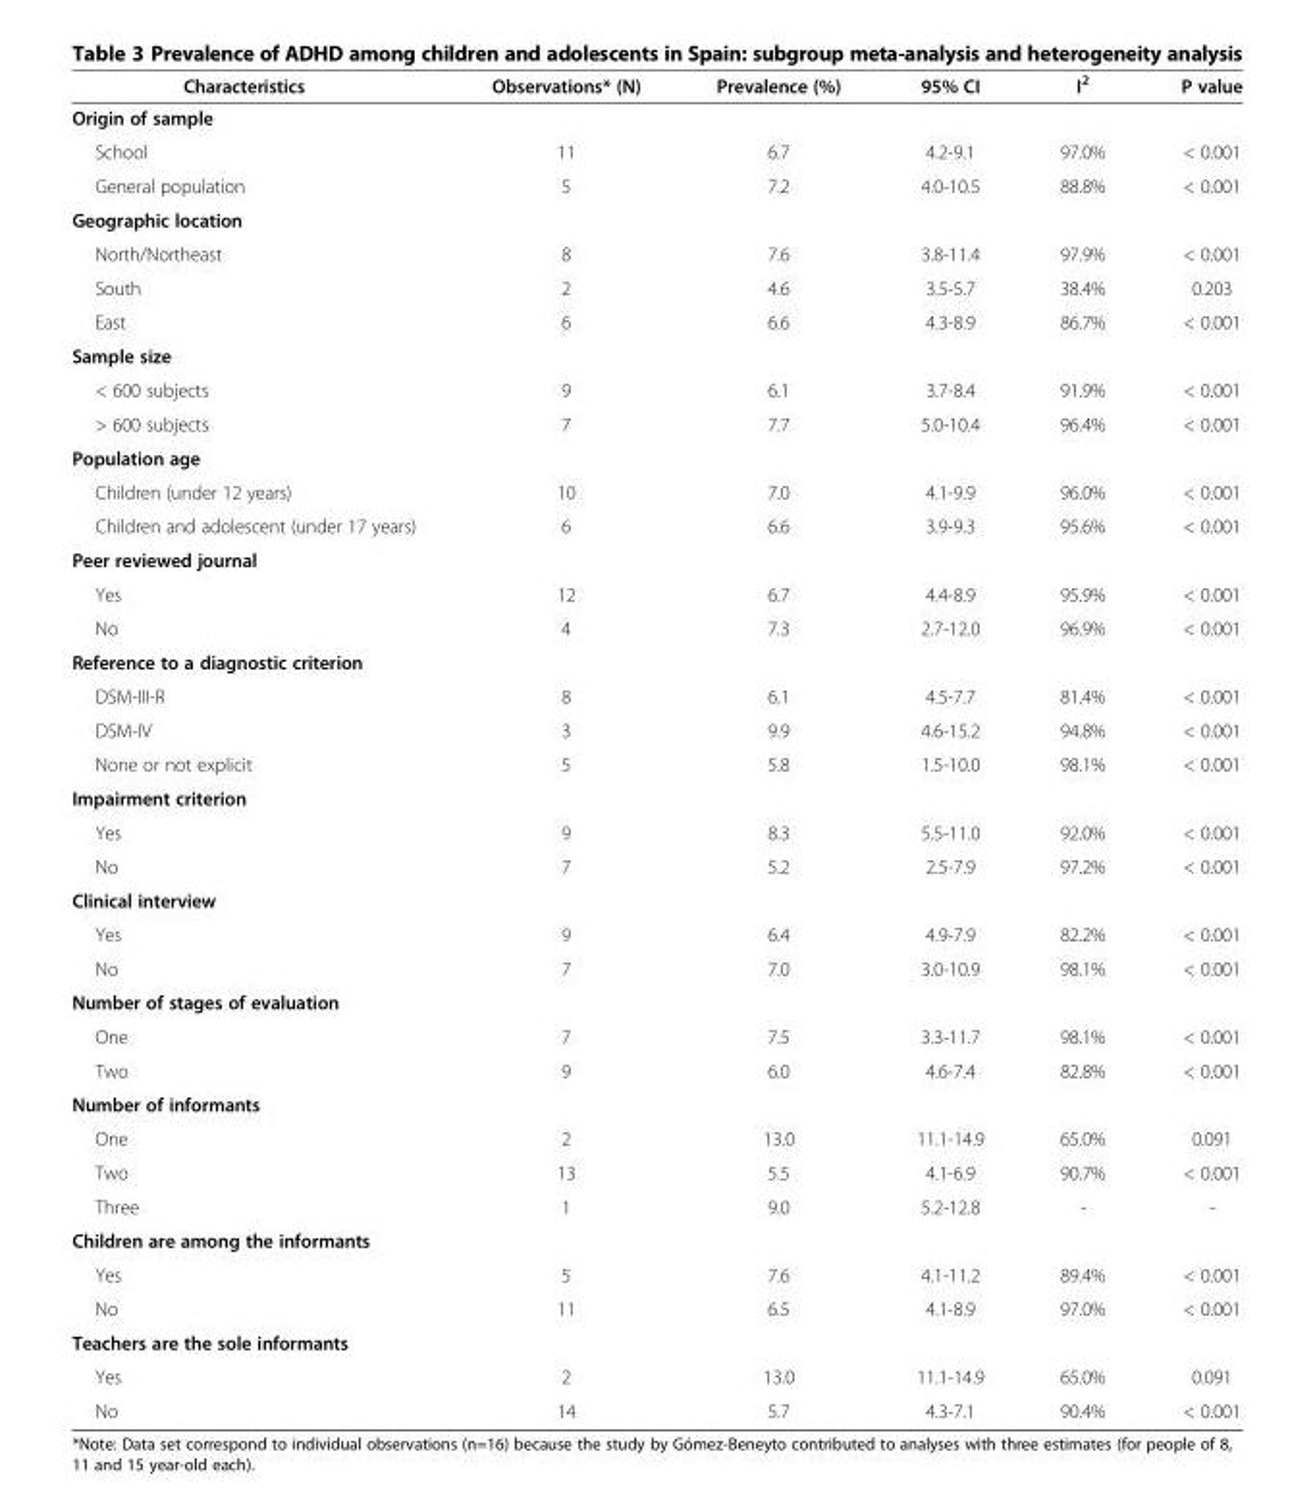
<table><thead><tr><td>Characteristics</td><td>Observations* (N)</td><td>Prevalence (%)</td><td>95% CI</td><td>I<sup>2</sup></td><td>P value</td></tr></thead><tbody><tr><td colspan="6">Origin of sample</td></tr><tr><td>School</td><td>11</td><td>6.7</td><td>4.2-9.1</td><td>97.0%</td><td>&lt; 0.001</td></tr><tr><td>General population</td><td>5</td><td>7.2</td><td>4.0-10.5</td><td>88.8%</td><td>&lt; 0.001</td></tr><tr><td colspan="6">Geographic location</td></tr><tr><td>North/Northeast</td><td>8</td><td>7.6</td><td>3.8-11.4</td><td>97.9%</td><td>&lt; 0.001</td></tr><tr><td>South</td><td>2</td><td>4.6</td><td>3.5-5.7</td><td>38.4%</td><td>0.203</td></tr><tr><td>East</td><td>6</td><td>6.6</td><td>4.3-8.9</td><td>86.7%</td><td>&lt; 0.001</td></tr><tr><td colspan="6">Sample size</td></tr><tr><td>&lt; 600 subjects</td><td>9</td><td>6.1</td><td>3.7-8.4</td><td>91.9%</td><td>&lt; 0.001</td></tr><tr><td>&gt; 600 subjects</td><td>7</td><td>7.7</td><td>5.0-10.4</td><td>96.4%</td><td>&lt; 0.001</td></tr><tr><td colspan="6">Population age</td></tr><tr><td>Children (under 12 years)</td><td>10</td><td>7.0</td><td>4.1-9.9</td><td>96.0%</td><td>&lt; 0.001</td></tr><tr><td>Children and adolescent (under 17 years)</td><td>6</td><td>6.6</td><td>3.9-9.3</td><td>95.6%</td><td>&lt; 0.001</td></tr><tr><td colspan="6">Peer reviewed journal</td></tr><tr><td>Yes</td><td>12</td><td>6.7</td><td>4.4-8.9</td><td>95.9%</td><td>&lt; 0.001</td></tr><tr><td>No</td><td>4</td><td>7.3</td><td>2.7-12.0</td><td>96.9%</td><td>&lt; 0.001</td></tr><tr><td colspan="6">Reference to a diagnostic criterion</td></tr><tr><td>DSM-III-R</td><td>8</td><td>6.1</td><td>4.5-7.7</td><td>81.4%</td><td>&lt; 0.001</td></tr><tr><td>DSM-IV</td><td>3</td><td>9.9</td><td>4.6-15.2</td><td>94.8%</td><td>&lt; 0.001</td></tr><tr><td>None or not explicit</td><td>5</td><td>5.8</td><td>1.5-10.0</td><td>98.1%</td><td>&lt; 0.001</td></tr><tr><td colspan="6">Impairment criterion</td></tr><tr><td>Yes</td><td>9</td><td>8.3</td><td>5.5-11.0</td><td>92.0%</td><td>&lt; 0.001</td></tr><tr><td>No</td><td>7</td><td>5.2</td><td>2.5-7.9</td><td>97.2%</td><td>&lt; 0.001</td></tr><tr><td colspan="6">Clinical interview</td></tr><tr><td>Yes</td><td>9</td><td>6.4</td><td>4.9-7.9</td><td>82.2%</td><td>&lt; 0.001</td></tr><tr><td>No</td><td>7</td><td>7.0</td><td>3.0-10.9</td><td>98.1%</td><td>&lt; 0.001</td></tr><tr><td colspan="6">Number of stages of evaluation</td></tr><tr><td>One</td><td>7</td><td>7.5</td><td>3.3-11.7</td><td>98.1%</td><td>&lt; 0.001</td></tr><tr><td>Two</td><td>9</td><td>6.0</td><td>4.6-7.4</td><td>82.8%</td><td>&lt; 0.001</td></tr><tr><td colspan="6">Number of informants</td></tr><tr><td>One</td><td>2</td><td>13.0</td><td>11.1-14.9</td><td>65.0%</td><td>0.091</td></tr><tr><td>Two</td><td>13</td><td>5.5</td><td>4.1-6.9</td><td>90.7%</td><td>&lt; 0.001</td></tr><tr><td>Three</td><td>1</td><td>9.0</td><td>5.2-12.8</td><td>-</td><td>-</td></tr><tr><td colspan="6">Children are among the informants</td></tr><tr><td>Yes</td><td>5</td><td>7.6</td><td>4.1-11.2</td><td>89.4%</td><td>&lt; 0.001</td></tr><tr><td>No</td><td>11</td><td>6.5</td><td>4.1-8.9</td><td>97.0%</td><td>&lt; 0.001</td></tr><tr><td colspan="6">Teachers are the sole informants</td></tr><tr><td>Yes</td><td>2</td><td>13.0</td><td>11.1-14.9</td><td>65.0%</td><td>0.091</td></tr><tr><td>No</td><td>14</td><td>5.7</td><td>4.3-7.1</td><td>90.4%</td><td>&lt; 0.001</td></tr></tbody></table>